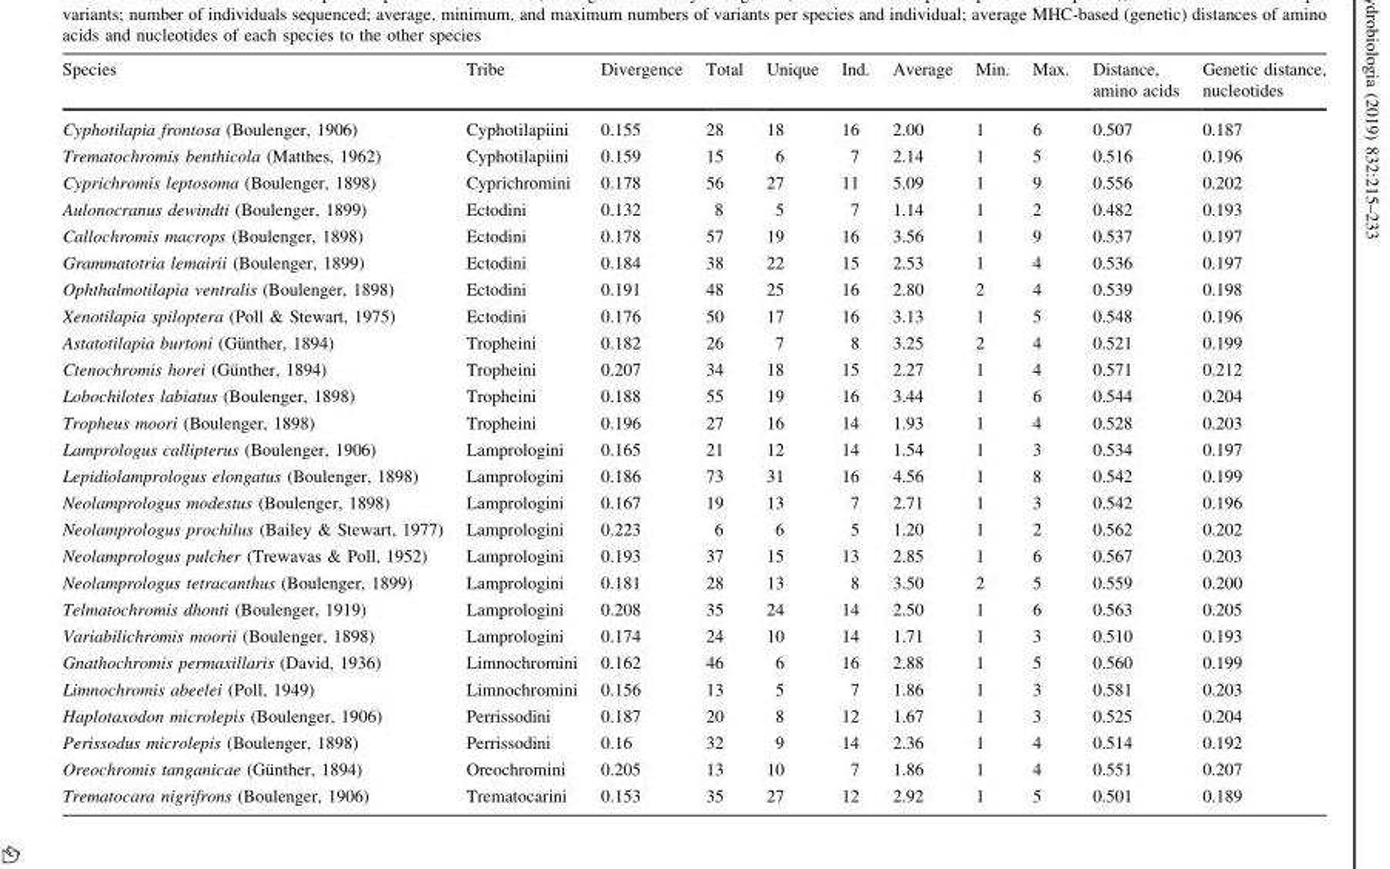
<table><thead><tr><td>Species</td><td>Tribe</td><td>Divergence</td><td>Total</td><td>Unique</td><td>Ind.</td><td>Average</td><td>Min.</td><td>Max.</td><td>Distance, amino acids</td><td>Genetic distance, nucleotides</td></tr></thead><tbody><tr><td>Cyphotilapia frontosa (Boulenger, 1906)</td><td>Cyphotilapiini</td><td>0.155</td><td>28</td><td>18</td><td>16</td><td>2.00</td><td>1</td><td>6</td><td>0.507</td><td>0.187</td></tr><tr><td>Trematochromis benthicola (Matthes, 1962)</td><td>Cyphotilapiini</td><td>0.159</td><td>15</td><td>6</td><td>7</td><td>2.14</td><td>1</td><td>5</td><td>0.516</td><td>0.196</td></tr><tr><td>Cyprichromis leptosoma (Boulenger, 1898)</td><td>Cyprichromini</td><td>0.178</td><td>56</td><td>27</td><td>11</td><td>5.09</td><td>1</td><td>9</td><td>0.556</td><td>0.202</td></tr><tr><td>Aulonocranus dewindti (Boulenger, 1899)</td><td>Ectodini</td><td>0.132</td><td>8</td><td>5</td><td>7</td><td>1.14</td><td>1</td><td>2</td><td>0.482</td><td>0.193</td></tr><tr><td>Callochromis macrops (Boulenger, 1898)</td><td>Ectodini</td><td>0.178</td><td>57</td><td>19</td><td>16</td><td>3.56</td><td>1</td><td>9</td><td>0.537</td><td>0.197</td></tr><tr><td>Grammatotria lemairii (Boulenger, 1899)</td><td>Ectodini</td><td>0.184</td><td>38</td><td>22</td><td>15</td><td>2.53</td><td>1</td><td>4</td><td>0.536</td><td>0.197</td></tr><tr><td>Ophthalmotilapia ventralis (Boulenger, 1898)</td><td>Ectodini</td><td>0.191</td><td>48</td><td>25</td><td>16</td><td>2.80</td><td>2</td><td>4</td><td>0.539</td><td>0.198</td></tr><tr><td>Xenotilapia spiloptera (Poll &amp; Stewart, 1975)</td><td>Ectodini</td><td>0.176</td><td>50</td><td>17</td><td>16</td><td>3.13</td><td>1</td><td>5</td><td>0.548</td><td>0.196</td></tr><tr><td>Astatotilapia burtoni (Gu¨nther, 1894)</td><td>Tropheini</td><td>0.182</td><td>26</td><td>7</td><td>8</td><td>3.25</td><td>2</td><td>4</td><td>0.521</td><td>0.199</td></tr><tr><td>Ctenochromis horei (Gu¨nther, 1894)</td><td>Tropheini</td><td>0.207</td><td>34</td><td>18</td><td>15</td><td>2.27</td><td>1</td><td>4</td><td>0.571</td><td>0.212</td></tr><tr><td>Lobochilotes labiatus (Boulenger, 1898)</td><td>Tropheini</td><td>0.188</td><td>55</td><td>19</td><td>16</td><td>3.44</td><td>1</td><td>6</td><td>0.544</td><td>0.204</td></tr><tr><td>Tropheus moori (Boulenger, 1898)</td><td>Tropheini</td><td>0.196</td><td>27</td><td>16</td><td>14</td><td>1.93</td><td>1</td><td>4</td><td>0.528</td><td>0.203</td></tr><tr><td>Lamprologus callipterus (Boulenger, 1906)</td><td>Lamprologini</td><td>0.165</td><td>21</td><td>12</td><td>14</td><td>1.54</td><td>1</td><td>3</td><td>0.534</td><td>0.197</td></tr><tr><td>Lepidiolamprologus elongatus (Boulenger, 1898)</td><td>Lamprologini</td><td>0.186</td><td>73</td><td>31</td><td>16</td><td>4.56</td><td>1</td><td>8</td><td>0.542</td><td>0.199</td></tr><tr><td>Neolamprologus modestus (Boulenger, 1898)</td><td>Lamprologini</td><td>0.167</td><td>19</td><td>13</td><td>7</td><td>2.71</td><td>1</td><td>3</td><td>0.542</td><td>0.196</td></tr><tr><td>Neolamprologus prochilus (Bailey &amp; Stewart, 1977)</td><td>Lamprologini</td><td>0.223</td><td>6</td><td>6</td><td>5</td><td>1.20</td><td>1</td><td>2</td><td>0.562</td><td>0.202</td></tr><tr><td>Neolamprologus pulcher (Trewavas &amp; Poll, 1952)</td><td>Lamprologini</td><td>0.193</td><td>37</td><td>15</td><td>13</td><td>2.85</td><td>1</td><td>6</td><td>0.567</td><td>0.203</td></tr><tr><td>Neolamprologus tetracanthus (Boulenger, 1899)</td><td>Lamprologini</td><td>0.181</td><td>28</td><td>13</td><td>8</td><td>3.50</td><td>2</td><td>5</td><td>0.559</td><td>0.200</td></tr><tr><td>Telmatochromis dhonti (Boulenger, 1919)</td><td>Lamprologini</td><td>0.208</td><td>35</td><td>24</td><td>14</td><td>2.50</td><td>1</td><td>6</td><td>0.563</td><td>0.205</td></tr><tr><td>Variabilichromis moorii (Boulenger, 1898)</td><td>Lamprologini</td><td>0.174</td><td>24</td><td>10</td><td>14</td><td>1.71</td><td>1</td><td>3</td><td>0.510</td><td>0.193</td></tr><tr><td>Gnathochromis permaxillaris (David, 1936)</td><td>Limnochromini</td><td>0.162</td><td>46</td><td>6</td><td>16</td><td>2.88</td><td>1</td><td>5</td><td>0.560</td><td>0.199</td></tr><tr><td>Limnochromis abeelei (Poll, 1949)</td><td>Limnochromini</td><td>0.156</td><td>13</td><td>5</td><td>7</td><td>1.86</td><td>1</td><td>3</td><td>0.581</td><td>0.203</td></tr><tr><td>Haplotaxodon microlepis (Boulenger, 1906)</td><td>Perrissodini</td><td>0.187</td><td>20</td><td>8</td><td>12</td><td>1.67</td><td>1</td><td>3</td><td>0.525</td><td>0.204</td></tr><tr><td>Perissodus microlepis (Boulenger, 1898)</td><td>Perrissodini</td><td>0.16</td><td>32</td><td>9</td><td>14</td><td>2.36</td><td>1</td><td>4</td><td>0.514</td><td>0.192</td></tr><tr><td>Oreochromis tanganicae (Gu¨nther, 1894)</td><td>Oreochromini</td><td>0.205</td><td>13</td><td>10</td><td>7</td><td>1.86</td><td>1</td><td>4</td><td>0.551</td><td>0.207</td></tr><tr><td>Trematocara nigrifrons (Boulenger, 1906)</td><td>Trematocarini</td><td>0.153</td><td>35</td><td>27</td><td>12</td><td>2.92</td><td>1</td><td>5</td><td>0.501</td><td>0.189</td></tr></tbody></table>